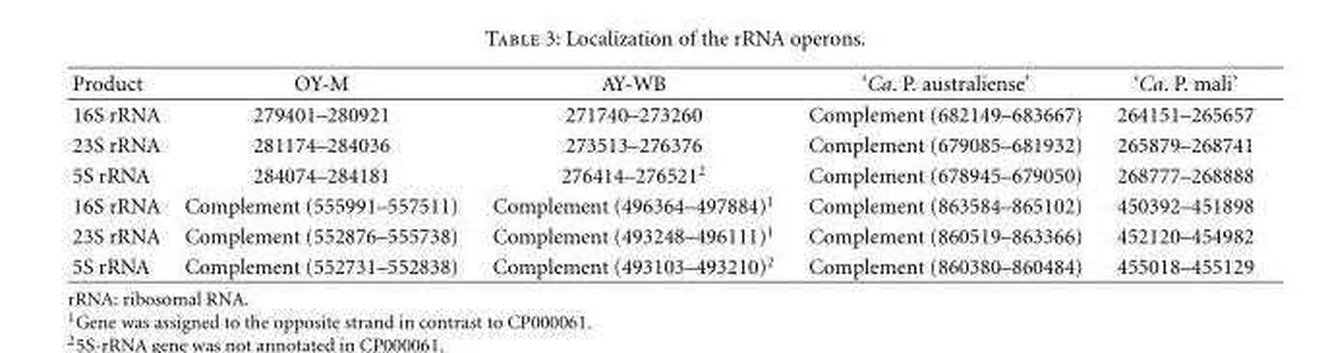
<table><thead><tr><td>Product</td><td>OY-M</td><td>AY-WB</td><td>‘Ca. P. australiense’</td><td>‘Ca. P. mali’</td></tr></thead><tbody><tr><td>16S rRNA</td><td>279401–280921</td><td>271740–273260</td><td>Complement (682149–683667)</td><td>264151–265657</td></tr><tr><td>23S rRNA</td><td>281174–284036</td><td>273513–276376</td><td>Complement (679085–681932)</td><td>265879–268741</td></tr><tr><td>5S rRNA</td><td>284074–284181</td><td>276414–276521<sup>2</sup></td><td>Complement (678945–679050)</td><td>268777–268888</td></tr><tr><td>16S rRNA</td><td>Complement (555991–557511)</td><td>Complement (496364–497884)<sup>1</sup></td><td>Complement (863584–865102)</td><td>450392–451898</td></tr><tr><td>23S rRNA</td><td>Complement (552876–555738)</td><td>Complement (493248–496111)<sup>1</sup></td><td>Complement (860519–863366)</td><td>452120–454982</td></tr><tr><td>5S rRNA</td><td>Complement (552731–552838)</td><td>Complement (493103–493210)<sup>2</sup></td><td>Complement (860380–860484)</td><td>455018–455129</td></tr></tbody></table>